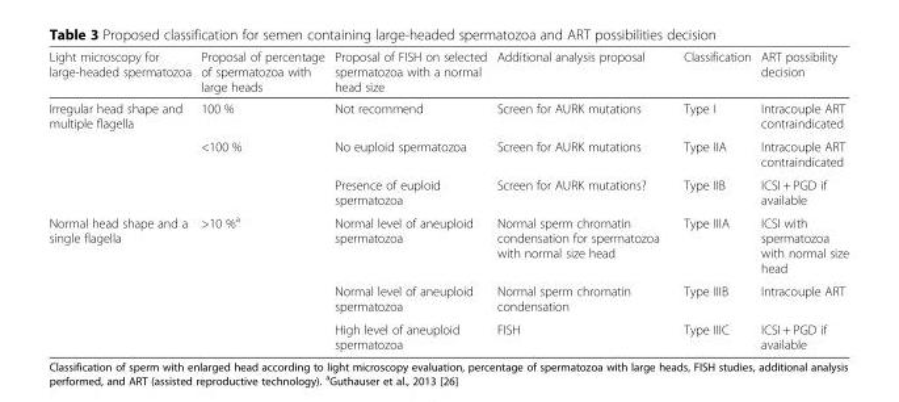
<table><thead><tr><td>Light microscopy for large-headed spermatozoa</td><td>Proposal of percentage of spermatozoa with large heads</td><td>Proposal of FISH on selected spermatozoa with a normal head size</td><td>Additional analysis proposal</td><td>Classification</td><td>ART possibility decision</td></tr></thead><tbody><tr><td rowspan="3">Irregular head shape and multiple flagella</td><td>100 %</td><td>Not recommend</td><td>Screen for AURK mutations</td><td>Type I</td><td>Intracouple ART contraindicated</td></tr><tr><td rowspan="2">&lt;100 %</td><td>No euploid spermatozoa</td><td>Screen for AURK mutations</td><td>Type IIA</td><td>Intracouple ART contraindicated</td></tr><tr><td>Presence of euploid spermatozoa</td><td>Screen for AURK mutations?</td><td>Type IIB</td><td>ICSI + PGD if available</td></tr><tr><td rowspan="3">Normal head shape and a single flagella</td><td rowspan="3">&gt;10 %<sup>a</sup></td><td>Normal level of aneuploid spermatozoa</td><td>Normal sperm chromatin condensation for spermatozoa with normal size head</td><td>Type IIIA</td><td>ICSI with spermatozoa with normal size head</td></tr><tr><td>Normal level of aneuploid spermatozoa</td><td>Normal sperm chromatin condensation</td><td>Type IIIB</td><td>Intracouple ART</td></tr><tr><td>High level of aneuploid spermatozoa</td><td>FISH</td><td>Type IIIC</td><td>ICSI + PGD if available</td></tr></tbody></table>